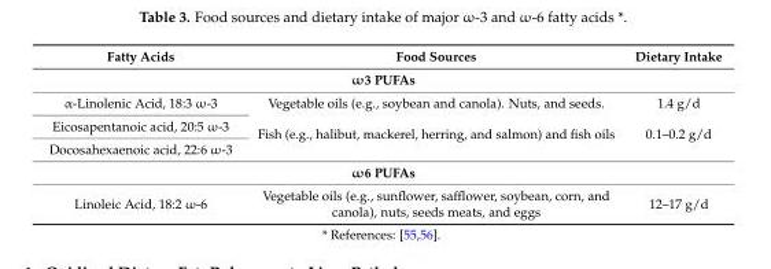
<table><thead><tr><td>Fatty Acids</td><td>Food Sources</td><td>Dietary Intake</td></tr></thead><tbody><tr><td colspan="3">ω3 PUFAs</td></tr><tr><td>α-Linolenic Acid, 18:3 ω-3</td><td>Vegetable oils (e.g., soybean and canola). Nuts, and seeds.</td><td>1.4 g/d</td></tr><tr><td>Eicosapentanoic acid, 20:5 ω-3</td><td rowspan="2">Fish (e.g., halibut, mackerel, herring, and salmon) and fish oils</td><td rowspan="2">0.1–0.2 g/d</td></tr><tr><td>Docosahexaenoic acid, 22:6 ω-3</td></tr><tr><td colspan="3">ω6 PUFAs</td></tr><tr><td>Linoleic Acid, 18:2 ω-6</td><td>Vegetable oils (e.g., sunflower, safflower, soybean, corn, and canola), nuts, seeds meats, and eggs</td><td>12–17 g/d</td></tr></tbody></table>